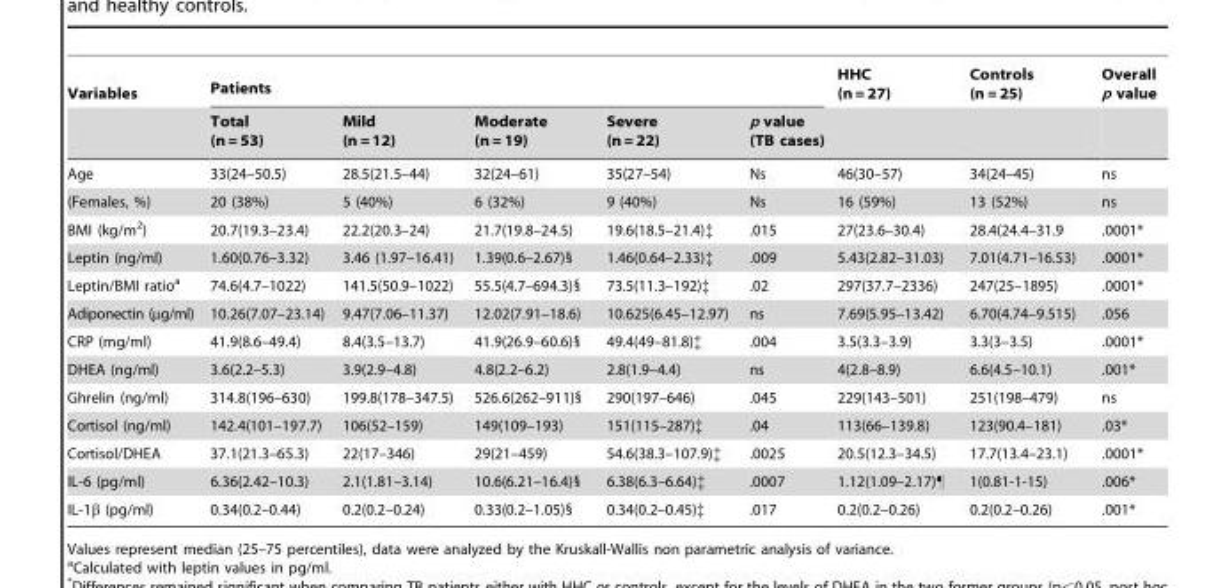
<table><thead><tr><td rowspan="2">Variables</td><td colspan="5">Patients</td><td rowspan="2">HHC (n = 27)</td><td rowspan="2">Controls (n = 25)</td><td rowspan="2">Overall p value</td></tr><tr><td>Total (n = 53)</td><td>Mild (n = 12)</td><td>Moderate (n = 19)</td><td>Severe (n = 22)</td><td>p value (TB cases)</td></tr></thead><tbody><tr><td>Age</td><td>33(24–50.5)</td><td>28.5(21.5–44)</td><td>32(24–61)</td><td>35(27–54)</td><td>Ns</td><td>46(30–57)</td><td>34(24–45)</td><td>ns</td></tr><tr><td>(Females, %)</td><td>20 (38%)</td><td>5 (40%)</td><td>6 (32%)</td><td>9 (40%)</td><td>Ns</td><td>16 (59%)</td><td>13 (52%)</td><td>ns</td></tr><tr><td>BMI (kg/m<sup>2</sup>)</td><td>20.7(19.3–23.4)</td><td>22.2(20.3–24)</td><td>21.7(19.8–24.5)</td><td>19.6(18.5–21.4)‡</td><td>.015</td><td>27(23.6–30.4)</td><td>28.4(24.4–31.9</td><td>.0001*</td></tr><tr><td>Leptin (ng/ml)</td><td>1.60(0.76–3.32)</td><td>3.46 (1.97–16.41)</td><td>1.39(0.6–2.67)§</td><td>1.46(0.64–2.33)‡</td><td>.009</td><td>5.43(2.82–31.03)</td><td>7.01(4.71–16.53)</td><td>.0001*</td></tr><tr><td>Leptin/BMI ratio<sup>a</sup></td><td>74.6(4.7–1022)</td><td>141.5(50.9–1022)</td><td>55.5(4.7–694.3)§</td><td>73.5(11.3–192)‡</td><td>.02</td><td>297(37.7–2336)</td><td>247(25–1895)</td><td>.0001*</td></tr><tr><td>Adiponectin (µg/ml)</td><td>10.26(7.07–23.14)</td><td>9.47(7.06–11.37)</td><td>12.02(7.91–18.6)</td><td>10.625(6.45–12.97)</td><td>ns</td><td>7.69(5.95–13.42)</td><td>6.70(4.74–9.515)</td><td>.056</td></tr><tr><td>CRP (mg/ml)</td><td>41.9(8.6–49.4)</td><td>8.4(3.5–13.7)</td><td>41.9(26.9–60.6)§</td><td>49.4(49–81.8)‡</td><td>.004</td><td>3.5(3.3–3.9)</td><td>3.3(3–3.5)</td><td>.0001*</td></tr><tr><td>DHEA (ng/ml)</td><td>3.6(2.2–5.3)</td><td>3.9(2.9–4.8)</td><td>4.8(2.2–6.2)</td><td>2.8(1.9–4.4)</td><td>ns</td><td>4(2.8–8.9)</td><td>6.6(4.5–10.1)</td><td>.001*</td></tr><tr><td>Ghrelin (ng/ml)</td><td>314.8(196–630)</td><td>199.8(178–347.5)</td><td>526.6(262–911)§</td><td>290(197–646)</td><td>.045</td><td>229(143–501)</td><td>251(198–479)</td><td>ns</td></tr><tr><td>Cortisol (ng/ml)</td><td>142.4(101–197.7)</td><td>106(52–159)</td><td>149(109–193)</td><td>151(115–287)‡</td><td>.04</td><td>113(66–139.8)</td><td>123(90.4–181)</td><td>.03*</td></tr><tr><td>Cortisol/DHEA</td><td>37.1(21.3–65.3)</td><td>22(17–346)</td><td>29(21–459)</td><td>54.6(38.3–107.9)‡</td><td>.0025</td><td>20.5(12.3–34.5)</td><td>17.7(13.4–23.1)</td><td>.0001*</td></tr><tr><td>IL-6 (pg/ml)</td><td>6.36(2.42–10.3)</td><td>2.1(1.81–3.14)</td><td>10.6(6.21–16.4)§</td><td>6.38(6.3–6.64)‡</td><td>.0007</td><td>1.12(1.09–2.17)¶</td><td>1(0.81-1-15)</td><td>.006*</td></tr><tr><td>IL-1β (pg/ml)</td><td>0.34(0.2–0.44)</td><td>0.2(0.2–0.24)</td><td>0.33(0.2–1.05)§</td><td>0.34(0.2–0.45)‡</td><td>.017</td><td>0.2(0.2–0.26)</td><td>0.2(0.2–0.26)</td><td>.001*</td></tr></tbody></table>